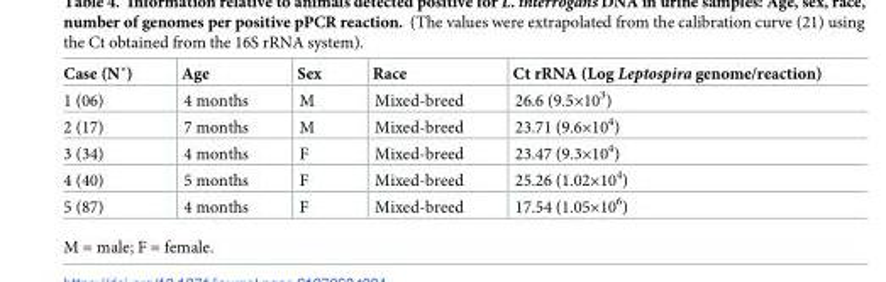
<table><thead><tr><td>Case (N˚)</td><td>Age</td><td>Sex</td><td>Race</td><td>Ct rRNA (Log Leptospira genome/reaction)</td></tr></thead><tbody><tr><td>1 (06)</td><td>4 months</td><td>M</td><td>Mixed-breed</td><td>26.6 (9.5×10<sup>3</sup>)</td></tr><tr><td>2 (17)</td><td>7 months</td><td>M</td><td>Mixed-breed</td><td>23.71 (9.6×10<sup>4</sup>)</td></tr><tr><td>3 (34)</td><td>4 months</td><td>F</td><td>Mixed-breed</td><td>23.47 (9.3×10<sup>4</sup>)</td></tr><tr><td>4 (40)</td><td>5 months</td><td>F</td><td>Mixed-breed</td><td>25.26 (1.02×10<sup>4</sup>)</td></tr><tr><td>5 (87)</td><td>4 months</td><td>F</td><td>Mixed-breed</td><td>17.54 (1.05×10<sup>6</sup>)</td></tr></tbody></table>